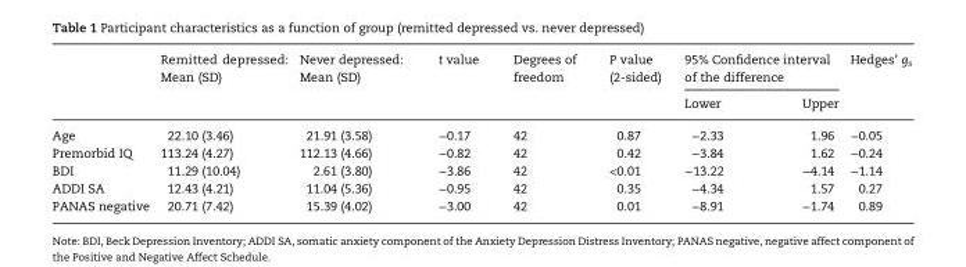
<table><thead><tr><td rowspan="2"></td><td rowspan="2">Remitted depressed: Mean (SD)</td><td rowspan="2">Never depressed: Mean (SD)</td><td rowspan="2">t value</td><td rowspan="2">Degrees of freedom</td><td rowspan="2">P value (2-sided)</td><td colspan="2">95% Confidence interval of the difference</td><td rowspan="2">Hedges’ g<sub>s</sub></td></tr><tr><td>Lower</td><td>Upper</td></tr></thead><tbody><tr><td>Age</td><td>22.10 (3.46)</td><td>21.91 (3.58)</td><td>−0.17</td><td>42</td><td>0.87</td><td>−2.33</td><td>1.96</td><td>−0.05</td></tr><tr><td>Premorbid IQ</td><td>113.24 (4.27)</td><td>112.13 (4.66)</td><td>−0.82</td><td>42</td><td>0.42</td><td>−3.84</td><td>1.62</td><td>−0.24</td></tr><tr><td>BDI</td><td>11.29 (10.04)</td><td>2.61 (3.80)</td><td>−3.86</td><td>42</td><td>&lt;0.01</td><td>−13.22</td><td>−4.14</td><td>−1.14</td></tr><tr><td>ADDI SA</td><td>12.43 (4.21)</td><td>11.04 (5.36)</td><td>−0.95</td><td>42</td><td>0.35</td><td>−4.34</td><td>1.57</td><td>0.27</td></tr><tr><td>PANAS negative</td><td>20.71 (7.42)</td><td>15.39 (4.02)</td><td>−3.00</td><td>42</td><td>0.01</td><td>−8.91</td><td>−1.74</td><td>0.89</td></tr></tbody></table>